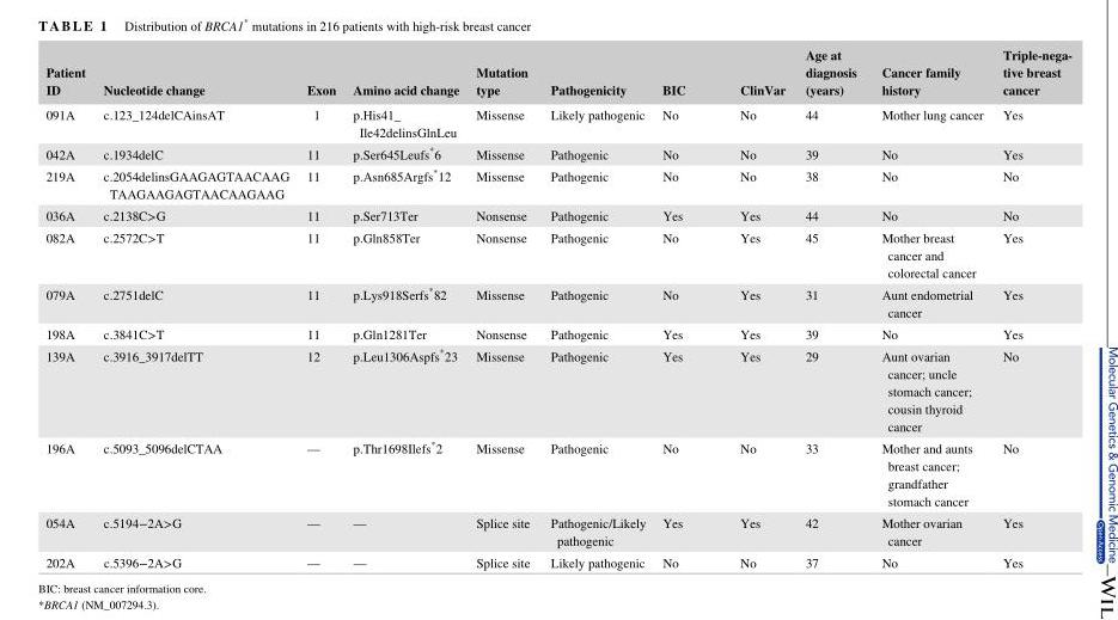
<table><thead><tr><td>Patient ID</td><td>Nucleotide change</td><td>Exon</td><td>Amino acid change</td><td>Mutation type</td><td>Pathogenicity</td><td>BIC</td><td>ClinVar</td><td>Age at diagnosis (years)</td><td>Cancer family history</td><td>Triple‐nega- tive breast cancer</td></tr></thead><tbody><tr><td>091A</td><td>c.123_124delCAinsAT</td><td>1</td><td>p.His41_ Ile42delinsGlnLeu</td><td>Missense</td><td>Likely pathogenic</td><td>No</td><td>No</td><td>44</td><td>Mother lung cancer</td><td>Yes</td></tr><tr><td>042A</td><td>c.1934delC</td><td>11</td><td>p.Ser645Leufs* 6</td><td>Missense</td><td>Pathogenic</td><td>No</td><td>No</td><td>39</td><td>No</td><td>Yes</td></tr><tr><td>219A</td><td>c.2054delinsGAAGAGTAACAAG TAAGAAGAGTAACAAGAAG</td><td>11</td><td>p.Asn685Argfs* 12</td><td>Missense</td><td>Pathogenic</td><td>No</td><td>No</td><td>38</td><td>No</td><td>No</td></tr><tr><td>036A</td><td>c.2138C&gt;G</td><td>11</td><td>p.Ser713Ter</td><td>Nonsense</td><td>Pathogenic</td><td>Yes</td><td>Yes</td><td>44</td><td>No</td><td>No</td></tr><tr><td>082A</td><td>c.2572C&gt;T</td><td>11</td><td>p.Gln858Ter</td><td>Nonsense</td><td>Pathogenic</td><td>No</td><td>Yes</td><td>45</td><td>Mother breast cancer and colorectal cancer</td><td>Yes</td></tr><tr><td>079A</td><td>c.2751delC</td><td>11</td><td>p.Lys918Serfs* 82</td><td>Missense</td><td>Pathogenic</td><td>No</td><td>Yes</td><td>31</td><td>Aunt endometrial cancer</td><td>Yes</td></tr><tr><td>198A</td><td>c.3841C&gt;T</td><td>11</td><td>p.Gln1281Ter</td><td>Nonsense</td><td>Pathogenic</td><td>Yes</td><td>Yes</td><td>39</td><td>No</td><td>Yes</td></tr><tr><td>139A</td><td>c.3916_3917delTT</td><td>12</td><td>p.Leu1306Aspfs* 23</td><td>Missense</td><td>Pathogenic</td><td>Yes</td><td>Yes</td><td>29</td><td>Aunt ovarian cancer; uncle stomach cancer; cousin thyroid cancer</td><td>No</td></tr><tr><td>196A</td><td>c.5093_5096delCTAA</td><td>—</td><td>p.Thr1698Ilefs* 2</td><td>Missense</td><td>Pathogenic</td><td>No</td><td>No</td><td>33</td><td>Mother and aunts breast cancer; grandfather stomach cancer</td><td>No</td></tr><tr><td>054A</td><td>c.5194−2A&gt;G</td><td>—</td><td>—</td><td>Splice site</td><td>Pathogenic/Likely pathogenic</td><td>Yes</td><td>Yes</td><td>42</td><td>Mother ovarian cancer</td><td>Yes</td></tr><tr><td>202A</td><td>c.5396−2A&gt;G</td><td>—</td><td>—</td><td>Splice site</td><td>Likely pathogenic</td><td>No</td><td>No</td><td>37</td><td>No</td><td>Yes</td></tr></tbody></table>